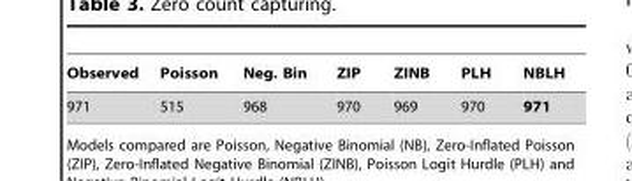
<table><thead><tr><td>Observed</td><td>Poisson</td><td>Neg. Bin</td><td>ZIP</td><td>ZINB</td><td>PLH</td><td>NBLH</td></tr></thead><tbody><tr><td>971</td><td>515</td><td>968</td><td>970</td><td>969</td><td>970</td><td>971</td></tr></tbody></table>